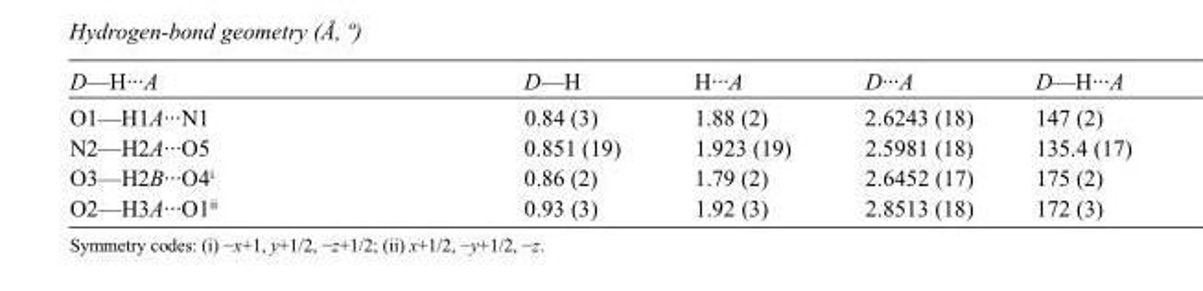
<table><tbody><tr><td>D—H···A</td><td>D—H</td><td>H···A</td><td>D···A</td><td>D—H···A</td></tr><tr><td>O1—H1A···N1</td><td>0.84 (3)</td><td>1.88 (2)</td><td>2.6243 (18)</td><td>147 (2)</td></tr><tr><td>N2—H2A···O5</td><td>0.851 (19)</td><td>1.923 (19)</td><td>2.5981 (18)</td><td>135.4 (17)</td></tr><tr><td>O3—H2B···O4<sup>i</sup></td><td>0.86 (2)</td><td>1.79 (2)</td><td>2.6452 (17)</td><td>175 (2)</td></tr><tr><td>O2—H3A···O1<sup>ii</sup></td><td>0.93 (3)</td><td>1.92 (3)</td><td>2.8513 (18)</td><td>172 (3)</td></tr></tbody></table>